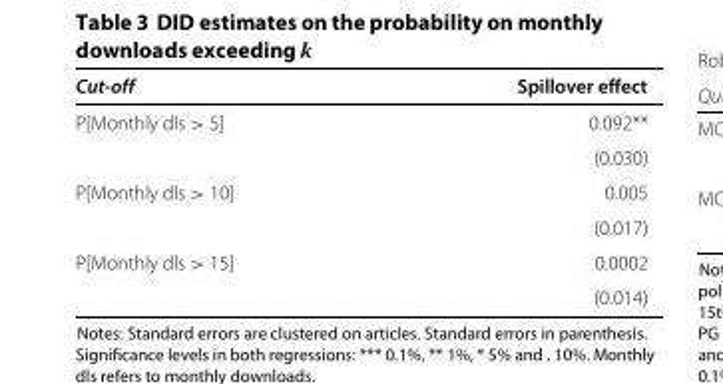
<table><thead><tr><td>Cut-off</td><td>Spillover effect</td></tr></thead><tbody><tr><td rowspan="2">P[Monthly dls &gt; 5]</td><td>0.092**</td></tr><tr><td>(0.030)</td></tr><tr><td rowspan="2">P[Monthly dls &gt; 10]</td><td>0.005</td></tr><tr><td>(0.017)</td></tr><tr><td rowspan="2">P[Monthly dls &gt; 15]</td><td>0.0002</td></tr><tr><td>(0.014)</td></tr></tbody></table>